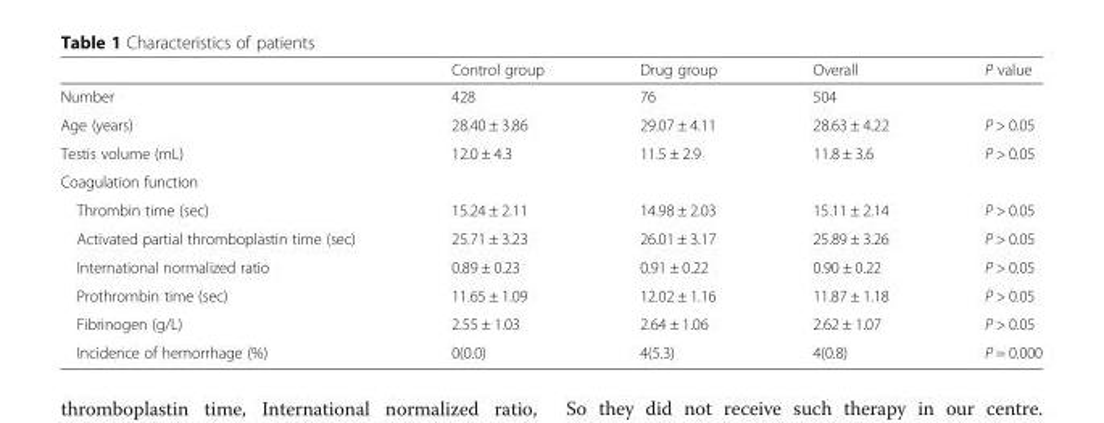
<table><thead><tr><td></td><td>Control group</td><td>Drug group</td><td>Overall</td><td>P value</td></tr></thead><tbody><tr><td>Number</td><td>428</td><td>76</td><td>504</td><td></td></tr><tr><td>Age (years)</td><td>28.40 ± 3.86</td><td>29.07 ± 4.11</td><td>28.63 ± 4.22</td><td>P &gt; 0.05</td></tr><tr><td>Testis volume (mL)</td><td>12.0 ± 4.3</td><td>11.5 ± 2.9</td><td>11.8 ± 3.6</td><td>P &gt; 0.05</td></tr><tr><td colspan="5">Coagulation function</td></tr><tr><td>Thrombin time (sec)</td><td>15.24 ± 2.11</td><td>14.98 ± 2.03</td><td>15.11 ± 2.14</td><td>P &gt; 0.05</td></tr><tr><td>Activated partial thromboplastin time (sec)</td><td>25.71 ± 3.23</td><td>26.01 ± 3.17</td><td>25.89 ± 3.26</td><td>P &gt; 0.05</td></tr><tr><td>International normalized ratio</td><td>0.89 ± 0.23</td><td>0.91 ± 0.22</td><td>0.90 ± 0.22</td><td>P &gt; 0.05</td></tr><tr><td>Prothrombin time (sec)</td><td>11.65 ± 1.09</td><td>12.02 ± 1.16</td><td>11.87 ± 1.18</td><td>P &gt; 0.05</td></tr><tr><td>Fibrinogen (g/L)</td><td>2.55 ± 1.03</td><td>2.64 ± 1.06</td><td>2.62 ± 1.07</td><td>P &gt; 0.05</td></tr><tr><td>Incidence of hemorrhage (%)</td><td>0(0.0)</td><td>4(5.3)</td><td>4(0.8)</td><td>P = 0.000</td></tr></tbody></table>